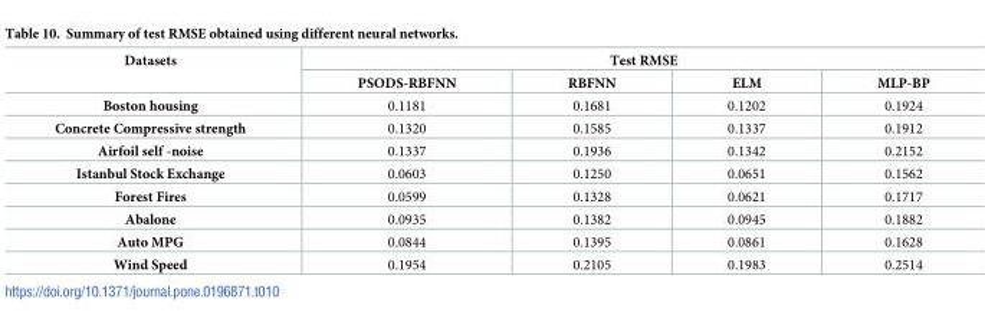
<table><thead><tr><td rowspan="2">Datasets</td><td colspan="4">Test RMSE</td></tr><tr><td>PSODS-RBFNN</td><td>RBFNN</td><td>ELM</td><td>MLP-BP</td></tr></thead><tbody><tr><td>Boston housing</td><td>0.1181</td><td>0.1681</td><td>0.1202</td><td>0.1924</td></tr><tr><td>Concrete Compressive strength</td><td>0.1320</td><td>0.1585</td><td>0.1337</td><td>0.1912</td></tr><tr><td>Airfoil self -noise</td><td>0.1337</td><td>0.1936</td><td>0.1342</td><td>0.2152</td></tr><tr><td>Istanbul Stock Exchange</td><td>0.0603</td><td>0.1250</td><td>0.0651</td><td>0.1562</td></tr><tr><td>Forest Fires</td><td>0.0599</td><td>0.1328</td><td>0.0621</td><td>0.1717</td></tr><tr><td>Abalone</td><td>0.0935</td><td>0.1382</td><td>0.0945</td><td>0.1882</td></tr><tr><td>Auto MPG</td><td>0.0844</td><td>0.1395</td><td>0.0861</td><td>0.1628</td></tr><tr><td>Wind Speed</td><td>0.1954</td><td>0.2105</td><td>0.1983</td><td>0.2514</td></tr></tbody></table>